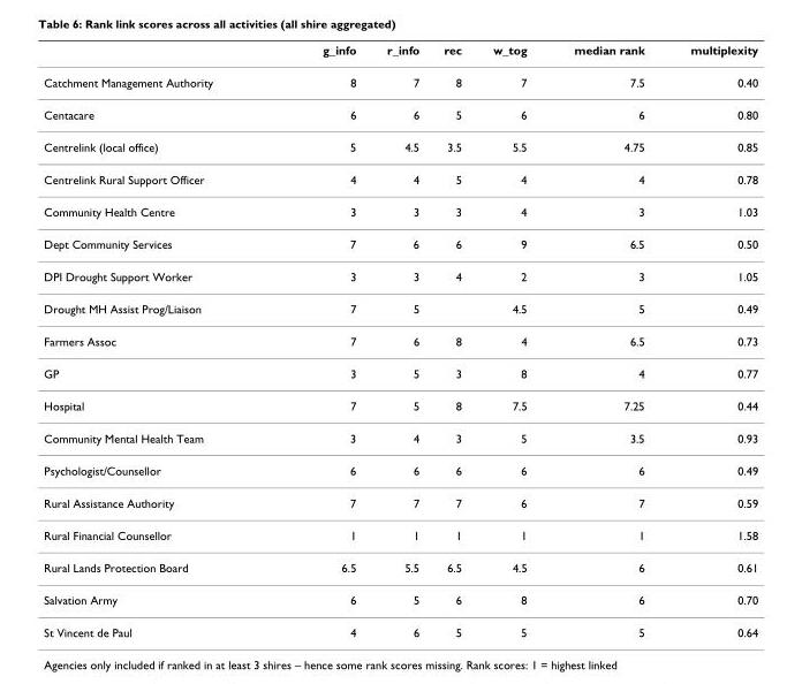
<table><thead><tr><td></td><td>g_info</td><td>r_info</td><td>rec</td><td>w_tog</td><td>median rank</td><td>multiplexity</td></tr></thead><tbody><tr><td>Catchment Management Authority</td><td>8</td><td>7</td><td>8</td><td>7</td><td>7.5</td><td>0.40</td></tr><tr><td>Centacare</td><td>6</td><td>6</td><td>5</td><td>6</td><td>6</td><td>0.80</td></tr><tr><td>Centrelink (local office)</td><td>5</td><td>4.5</td><td>3.5</td><td>5.5</td><td>4.75</td><td>0.85</td></tr><tr><td>Centrelink Rural Support Officer</td><td>4</td><td>4</td><td>5</td><td>4</td><td>4</td><td>0.78</td></tr><tr><td>Community Health Centre</td><td>3</td><td>3</td><td>3</td><td>4</td><td>3</td><td>1.03</td></tr><tr><td>Dept Community Services</td><td>7</td><td>6</td><td>6</td><td>9</td><td>6.5</td><td>0.50</td></tr><tr><td>DPI Drought Support Worker</td><td>3</td><td>3</td><td>4</td><td>2</td><td>3</td><td>1.05</td></tr><tr><td>Drought MH Assist Prog/Liaison</td><td>7</td><td>5</td><td></td><td>4.5</td><td>5</td><td>0.49</td></tr><tr><td>Farmers Assoc</td><td>7</td><td>6</td><td>8</td><td>4</td><td>6.5</td><td>0.73</td></tr><tr><td>GP</td><td>3</td><td>5</td><td>3</td><td>8</td><td>4</td><td>0.77</td></tr><tr><td>Hospital</td><td>7</td><td>5</td><td>8</td><td>7.5</td><td>7.25</td><td>0.44</td></tr><tr><td>Community Mental Health Team</td><td>3</td><td>4</td><td>3</td><td>5</td><td>3.5</td><td>0.93</td></tr><tr><td>Psychologist/Counsellor</td><td>6</td><td>6</td><td>6</td><td>6</td><td>6</td><td>0.49</td></tr><tr><td>Rural Assistance Authority</td><td>7</td><td>7</td><td>7</td><td>6</td><td>7</td><td>0.59</td></tr><tr><td>Rural Financial Counsellor</td><td>1</td><td>1</td><td>1</td><td>1</td><td>1</td><td>1.58</td></tr><tr><td>Rural Lands Protection Board</td><td>6.5</td><td>5.5</td><td>6.5</td><td>4.5</td><td>6</td><td>0.61</td></tr><tr><td>Salvation Army</td><td>6</td><td>5</td><td>6</td><td>8</td><td>6</td><td>0.70</td></tr><tr><td>St Vincent de Paul</td><td>4</td><td>6</td><td>5</td><td>5</td><td>5</td><td>0.64</td></tr></tbody></table>